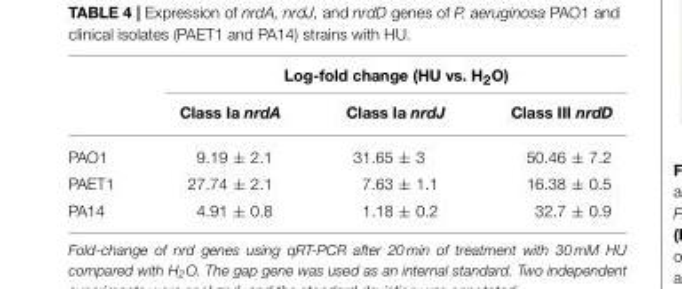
<table><thead><tr><td rowspan="2"></td><td colspan="3">Log-fold change (HU vs. H<sub>2</sub>O)</td></tr><tr><td>Class Ia nrdA</td><td>Class Ia nrdJ</td><td>Class III nrdD</td></tr></thead><tbody><tr><td>PAO1</td><td>9.19 ± 2.1</td><td>31.65 ± 3</td><td>50.46 ± 7.2</td></tr><tr><td>PAET1</td><td>27.74 ± 2.1</td><td>7.63 ± 1.1</td><td>16.38 ± 0.5</td></tr><tr><td>PA14</td><td>4.91 ± 0.8</td><td>1.18 ± 0.2</td><td>32.7 ± 0.9</td></tr></tbody></table>